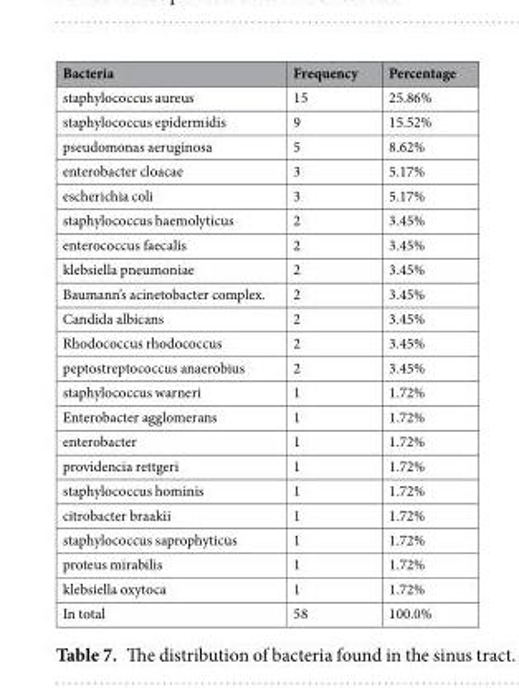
<table><thead><tr><td>Bacteria</td><td>Frequency</td><td>Percentage</td></tr></thead><tbody><tr><td>staphylococcus aureus</td><td>15</td><td>25.86%</td></tr><tr><td>staphylococcus epidermidis</td><td>9</td><td>15.52%</td></tr><tr><td>pseudomonas aeruginosa</td><td>5</td><td>8.62%</td></tr><tr><td>enterobacter cloacae</td><td>3</td><td>5.17%</td></tr><tr><td>escherichia coli</td><td>3</td><td>5.17%</td></tr><tr><td>staphylococcus haemolyticus</td><td>2</td><td>3.45%</td></tr><tr><td>enterococcus faecalis</td><td>2</td><td>3.45%</td></tr><tr><td>klebsiella pneumoniae</td><td>2</td><td>3.45%</td></tr><tr><td>Baumann’s acinetobacter complex.</td><td>2</td><td>3.45%</td></tr><tr><td>Candida albicans</td><td>2</td><td>3.45%</td></tr><tr><td>Rhodococcus rhodococcus</td><td>2</td><td>3.45%</td></tr><tr><td>peptostreptococcus anaerobius</td><td>2</td><td>3.45%</td></tr><tr><td>staphylococcus warneri</td><td>1</td><td>1.72%</td></tr><tr><td>Enterobacter agglomerans</td><td>1</td><td>1.72%</td></tr><tr><td>enterobacter</td><td>1</td><td>1.72%</td></tr><tr><td>providencia rettgeri</td><td>1</td><td>1.72%</td></tr><tr><td>staphylococcus hominis</td><td>1</td><td>1.72%</td></tr><tr><td>citrobacter braakii</td><td>1</td><td>1.72%</td></tr><tr><td>staphylococcus saprophyticus</td><td>1</td><td>1.72%</td></tr><tr><td>proteus mirabilis</td><td>1</td><td>1.72%</td></tr><tr><td>klebsiella oxytoca</td><td>1</td><td>1.72%</td></tr><tr><td>In total</td><td>58</td><td>100.0%</td></tr></tbody></table>